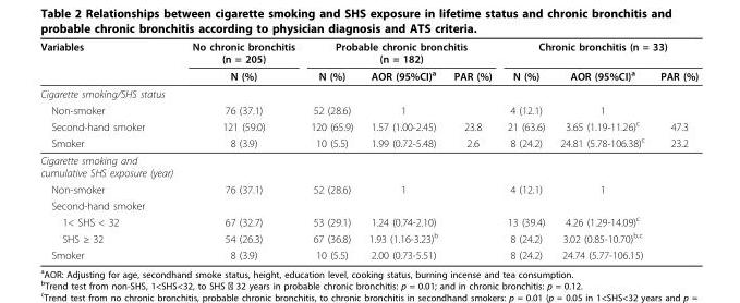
<table><thead><tr><td rowspan="2">Variables</td><td rowspan="2">No chronic bronchitis (n = 205) N (%)</td><td colspan="3">Probable chronic bronchitis (n = 182)</td><td colspan="3">Chronic bronchitis (n = 33)</td></tr><tr><td>N (%)</td><td>AOR (95%CI)<sup>a</sup></td><td>PAR (%)</td><td>N (%)</td><td>AOR (95%CI)<sup>a</sup></td><td>PAR (%)</td></tr></thead><tbody><tr><td colspan="8">Cigarette smoking/SHS status</td></tr><tr><td>Non-smoker</td><td>76 (37.1)</td><td>52 (28.6)</td><td>1</td><td></td><td>4 (12.1)</td><td>1</td><td></td></tr><tr><td>Second-hand smoker</td><td>121 (59.0)</td><td>120 (65.9)</td><td>1.57 (1.00-2.45)</td><td>23.8</td><td>21 (63.6)</td><td>3.65 (1.19-11.26)<sup>c</sup></td><td>47.3</td></tr><tr><td>Smoker</td><td>8 (3.9)</td><td>10 (5.5)</td><td>1.99 (0.72-5.48)</td><td>2.6</td><td>8 (24.2)</td><td>24.81 (5.78-106.38)<sup>c</sup></td><td>23.2</td></tr><tr><td colspan="8">Cigarette smoking and cumulative SHS exposure (year)</td></tr><tr><td>Non-smoker</td><td>76 (37.1)</td><td>52 (28.6)</td><td>1</td><td></td><td>4 (12.1)</td><td>1</td><td></td></tr><tr><td colspan="8">Second-hand smoker</td></tr><tr><td>1&lt; SHS &lt; 32</td><td>67 (32.7)</td><td>53 (29.1)</td><td>1.24 (0.74-2.10)</td><td></td><td>13 (39.4)</td><td>4.26 (1.29-14.09)<sup>c</sup></td><td></td></tr><tr><td>SHS ≥ 32</td><td>54 (26.3)</td><td>67 (36.8)</td><td>1.93 (1.16-3.23)<sup>b</sup></td><td></td><td>8 (24.2)</td><td>3.02 (0.85-10.70)<sup>b,c</sup></td><td></td></tr><tr><td>Smoker</td><td>8 (3.9)</td><td>10 (5.5)</td><td>2.00 (0.73-5.51)</td><td></td><td>8 (24.2)</td><td>24.74 (5.77-106.15)</td><td></td></tr></tbody></table>